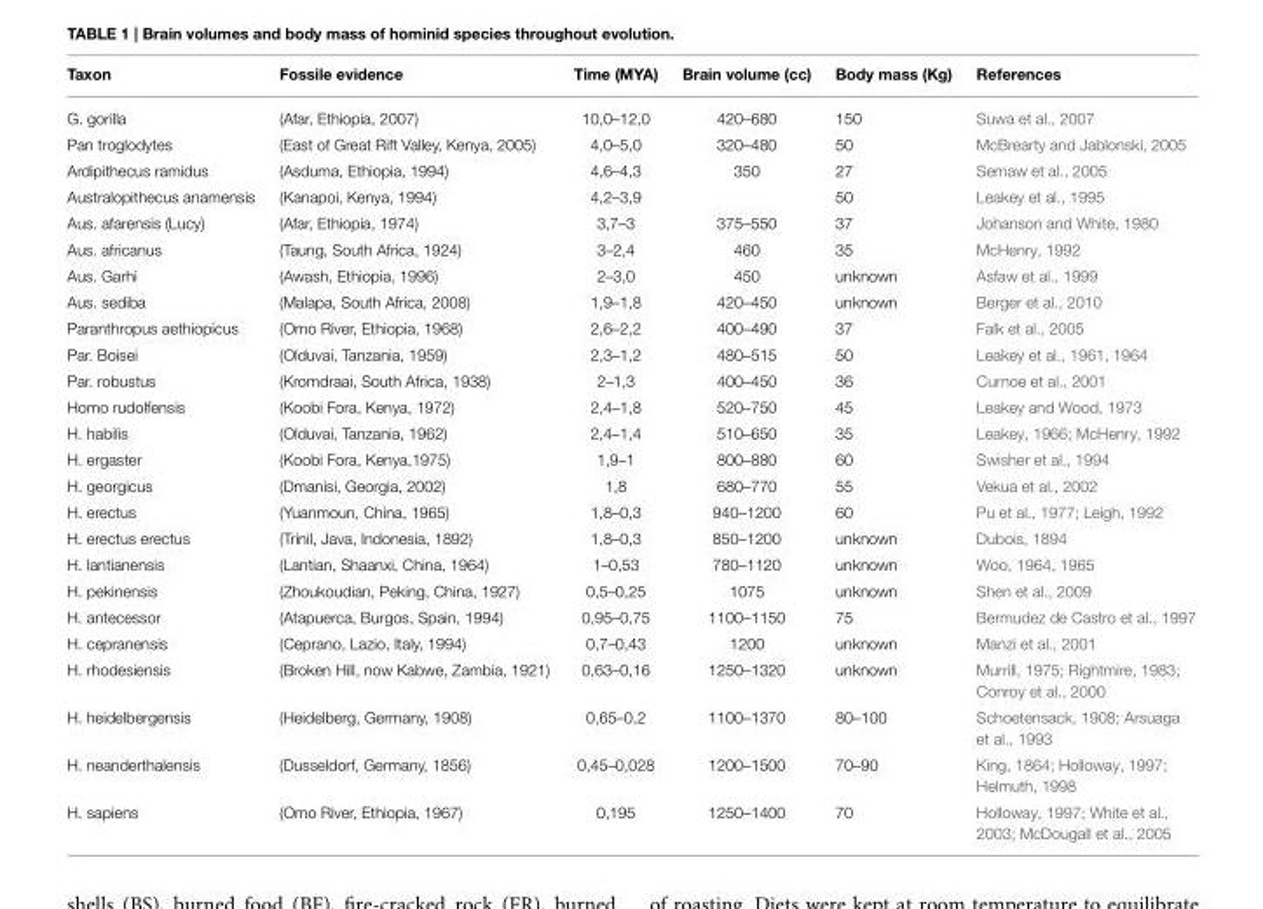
<table><thead><tr><td>Taxon</td><td>Fossile evidence</td><td>Time (MYA)</td><td>Brain volume (cc)</td><td>Body mass (Kg)</td><td>References</td></tr></thead><tbody><tr><td>G. gorilla</td><td>(Afar, Ethiopia, 2007)</td><td>10,0–12,0</td><td>420–680</td><td>150</td><td>Suwa et al., 2007</td></tr><tr><td>Pan troglodytes</td><td>(East of Great Rift Valley, Kenya, 2005)</td><td>4,0–5,0</td><td>320–480</td><td>50</td><td>McBrearty and Jablonski, 2005</td></tr><tr><td>Ardipithecus ramidus</td><td>(Asduma, Ethiopia, 1994)</td><td>4,6–4,3</td><td>350</td><td>27</td><td>Semaw et al., 2005</td></tr><tr><td>Australopithecus anamensis</td><td>(Kanapoi, Kenya, 1994)</td><td>4,2–3,9</td><td></td><td>50</td><td>Leakey et al., 1995</td></tr><tr><td>Aus. afarensis (Lucy)</td><td>(Afar, Ethiopia, 1974)</td><td>3,7–3</td><td>375–550</td><td>37</td><td>Johanson and White, 1980</td></tr><tr><td>Aus. africanus</td><td>(Taung, South Africa, 1924)</td><td>3–2,4</td><td>460</td><td>35</td><td>McHenry, 1992</td></tr><tr><td>Aus. Garhi</td><td>(Awash, Ethiopia, 1996)</td><td>2–3,0</td><td>450</td><td>unknown</td><td>Asfaw et al., 1999</td></tr><tr><td>Aus. sediba</td><td>(Malapa, South Africa, 2008)</td><td>1,9–1,8</td><td>420–450</td><td>unknown</td><td>Berger et al., 2010</td></tr><tr><td>Paranthropus aethiopicus</td><td>(Omo River, Ethiopia, 1968)</td><td>2,6–2,2</td><td>400–490</td><td>37</td><td>Falk et al., 2005</td></tr><tr><td>Par. Boisei</td><td>(Olduvai, Tanzania, 1959)</td><td>2,3–1,2</td><td>480–515</td><td>50</td><td>Leakey et al., 1961, 1964</td></tr><tr><td>Par. robustus</td><td>(Kromdraai, South Africa, 1938)</td><td>2–1,3</td><td>400–450</td><td>36</td><td>Curnoe et al., 2001</td></tr><tr><td>Homo rudolfensis</td><td>(Koobi Fora, Kenya, 1972)</td><td>2,4–1,8</td><td>520–750</td><td>45</td><td>Leakey and Wood, 1973</td></tr><tr><td>H. habilis</td><td>(Olduvai, Tanzania, 1962)</td><td>2,4–1,4</td><td>510–650</td><td>35</td><td>Leakey, 1966; McHenry, 1992</td></tr><tr><td>H. ergaster</td><td>(Koobi Fora, Kenya,1975)</td><td>1,9–1</td><td>800–880</td><td>60</td><td>Swisher et al., 1994</td></tr><tr><td>H. georgicus</td><td>(Dmanisi, Georgia, 2002)</td><td>1,8</td><td>680–770</td><td>55</td><td>Vekua et al., 2002</td></tr><tr><td>H. erectus</td><td>(Yuanmoun, China, 1965)</td><td>1,8–0,3</td><td>940–1200</td><td>60</td><td>Pu et al., 1977; Leigh, 1992</td></tr><tr><td>H. erectus erectus</td><td>(Trinil, Java, Indonesia, 1892)</td><td>1,8–0,3</td><td>850–1200</td><td>unknown</td><td>Dubois, 1894</td></tr><tr><td>H. lantianensis</td><td>(Lantian, Shaanxi, China, 1964)</td><td>1–0,53</td><td>780–1120</td><td>unknown</td><td>Woo, 1964, 1965</td></tr><tr><td>H. pekinensis</td><td>(Zhoukoudian, Peking, China, 1927)</td><td>0,5–0,25</td><td>1075</td><td>unknown</td><td>Shen et al., 2009</td></tr><tr><td>H. antecessor</td><td>(Atapuerca, Burgos, Spain, 1994)</td><td>0,95–0,75</td><td>1100–1150</td><td>75</td><td>Bermudez de Castro et al., 1997</td></tr><tr><td>H. cepranensis</td><td>(Ceprano, Lazio, Italy, 1994)</td><td>0,7–0,43</td><td>1200</td><td>unknown</td><td>Manzi et al., 2001</td></tr><tr><td>H. rhodesiensis</td><td>(Broken Hill, now Kabwe, Zambia, 1921)</td><td>0,63–0,16</td><td>1250–1320</td><td>unknown</td><td>Murrill, 1975; Rightmire, 1983; Conroy et al., 2000</td></tr><tr><td>H. heidelbergensis</td><td>(Heidelberg, Germany, 1908)</td><td>0,65–0,2</td><td>1100–1370</td><td>80–100</td><td>Schoetensack, 1908; Arsuaga et al., 1993</td></tr><tr><td>H. neanderthalensis</td><td>(Dusseldorf, Germany, 1856)</td><td>0,45–0,028</td><td>1200–1500</td><td>70–90</td><td>King, 1864; Holloway, 1997; Helmuth, 1998</td></tr><tr><td>H. sapiens</td><td>(Omo River, Ethiopia, 1967)</td><td>0,195</td><td>1250–1400</td><td>70</td><td>Holloway, 1997; White et al., 2003; McDougall et al., 2005</td></tr></tbody></table>